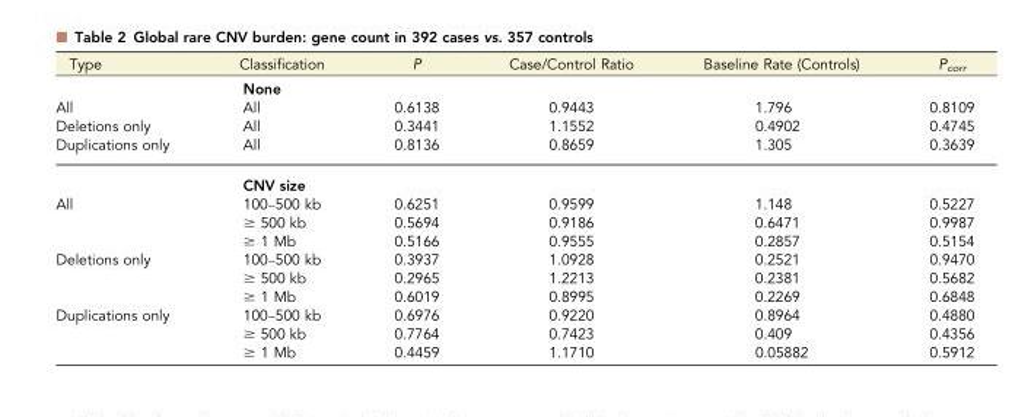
<table><thead><tr><td>Type</td><td>Classification</td><td>P</td><td>Case/Control Ratio</td><td>Baseline Rate (Controls)</td><td>P<sub>corr</sub></td></tr></thead><tbody><tr><td></td><td>None</td><td></td><td></td><td></td><td></td></tr><tr><td>All</td><td>All</td><td>0.6138</td><td>0.9443</td><td>1.796</td><td>0.8109</td></tr><tr><td>Deletions only</td><td>All</td><td>0.3441</td><td>1.1552</td><td>0.4902</td><td>0.4745</td></tr><tr><td rowspan="2">Duplications only</td><td>All</td><td>0.8136</td><td>0.8659</td><td>1.305</td><td>0.3639</td></tr><tr><td>CNV size</td><td></td><td></td><td></td><td></td></tr><tr><td rowspan="3">All</td><td>100–500 kb</td><td>0.6251</td><td>0.9599</td><td>1.148</td><td>0.5227</td></tr><tr><td>≥ 500 kb</td><td>0.5694</td><td>0.9186</td><td>0.6471</td><td>0.9987</td></tr><tr><td>≥ 1 Mb</td><td>0.5166</td><td>0.9555</td><td>0.2857</td><td>0.5154</td></tr><tr><td rowspan="3">Deletions only</td><td>100–500 kb</td><td>0.3937</td><td>1.0928</td><td>0.2521</td><td>0.9470</td></tr><tr><td>≥ 500 kb</td><td>0.2965</td><td>1.2213</td><td>0.2381</td><td>0.5682</td></tr><tr><td>≥ 1 Mb</td><td>0.6019</td><td>0.8995</td><td>0.2269</td><td>0.6848</td></tr><tr><td rowspan="3">Duplications only</td><td>100–500 kb</td><td>0.6976</td><td>0.9220</td><td>0.8964</td><td>0.4880</td></tr><tr><td>≥ 500 kb</td><td>0.7764</td><td>0.7423</td><td>0.409</td><td>0.4356</td></tr><tr><td>≥ 1 Mb</td><td>0.4459</td><td>1.1710</td><td>0.05882</td><td>0.5912</td></tr></tbody></table>